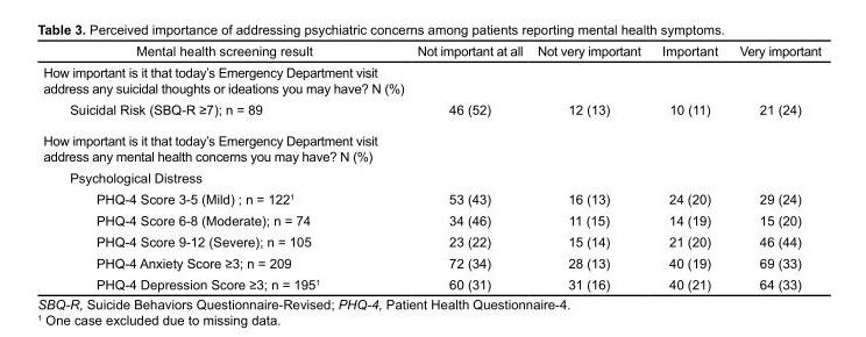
<table><thead><tr><td>Mental health screening result</td><td>Not important at all</td><td>Not very important</td><td>Important</td><td>Very important</td></tr></thead><tbody><tr><td colspan="5">How important is it that today’s Emergency Department visit address any suicidal thoughts or ideations you may have? N (%)</td></tr><tr><td>Suicidal Risk (SBQ-R ≥7); n = 89</td><td>46 (52)</td><td>12 (13)</td><td>10 (11)</td><td>21 (24)</td></tr><tr><td colspan="5">How important is it that today’s Emergency Department visit address any mental health concerns you may have? N (%)</td></tr><tr><td colspan="5">Psychological Distress</td></tr><tr><td>PHQ-4 Score 3-5 (Mild) ; n = 122<sup>1</sup></td><td>53 (43)</td><td>16 (13)</td><td>24 (20)</td><td>29 (24)</td></tr><tr><td>PHQ-4 Score 6-8 (Moderate); n = 74</td><td>34 (46)</td><td>11 (15)</td><td>14 (19)</td><td>15 (20)</td></tr><tr><td>PHQ-4 Score 9-12 (Severe); n = 105</td><td>23 (22)</td><td>15 (14)</td><td>21 (20)</td><td>46 (44)</td></tr><tr><td>PHQ-4 Anxiety Score ≥3; n = 209</td><td>72 (34)</td><td>28 (13)</td><td>40 (19)</td><td>69 (33)</td></tr><tr><td>PHQ-4 Depression Score ≥3; n = 195<sup>1</sup></td><td>60 (31)</td><td>31 (16)</td><td>40 (21)</td><td>64 (33)</td></tr></tbody></table>